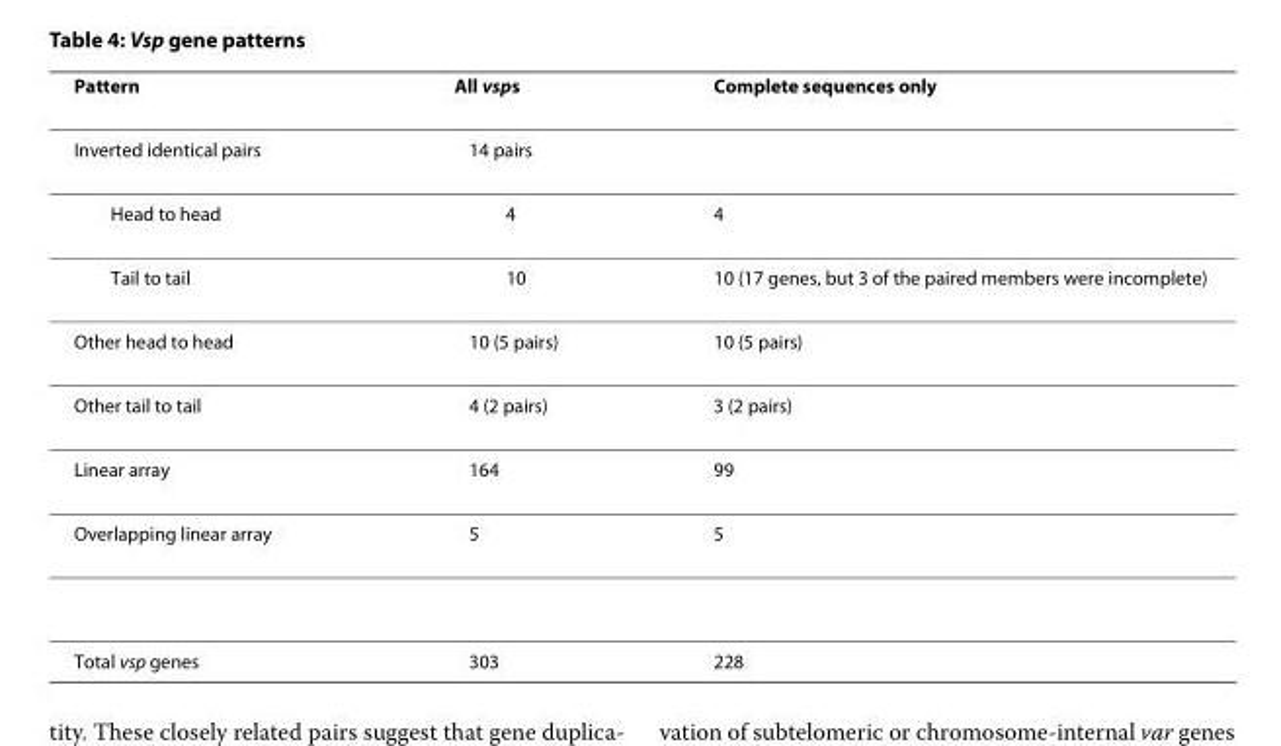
<table><thead><tr><td>Pattern</td><td>All vsps</td><td>Complete sequences only</td></tr></thead><tbody><tr><td>Inverted identical pairs</td><td>14 pairs</td><td></td></tr><tr><td>Head to head</td><td>4</td><td>4</td></tr><tr><td>Tail to tail</td><td>10</td><td>10 (17 genes, but 3 of the paired members were incomplete)</td></tr><tr><td>Other head to head</td><td>10 (5 pairs)</td><td>10 (5 pairs)</td></tr><tr><td>Other tail to tail</td><td>4 (2 pairs)</td><td>3 (2 pairs)</td></tr><tr><td>Linear array</td><td>164</td><td>99</td></tr><tr><td>Overlapping linear array</td><td>5</td><td>5</td></tr><tr><td>Total vsp genes</td><td>303</td><td>228</td></tr></tbody></table>